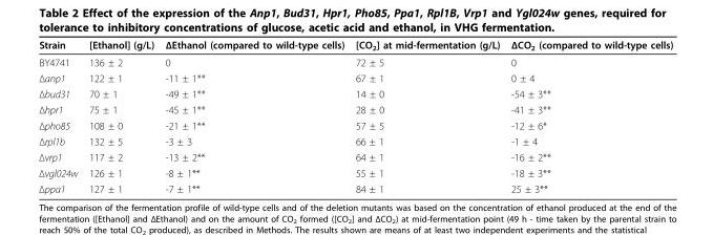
<table><thead><tr><td>Strain</td><td>[Ethanol] (g/L)</td><td>ΔEthanol (compared to wild-type cells)</td><td>[CO<sub>2</sub>] at mid-fermentation (g/L)</td><td>ΔCO<sub>2</sub> (compared to wild-type cells)</td></tr></thead><tbody><tr><td>BY4741</td><td>136 ± 2</td><td>0</td><td>72 ± 5</td><td>0</td></tr><tr><td>Δanp1</td><td>122 ± 1</td><td>-11 ± 1**</td><td>67 ± 1</td><td>0 ± 4</td></tr><tr><td>Δbud31</td><td>70 ± 1</td><td>-49 ± 1**</td><td>14 ± 0</td><td>-54 ± 3**</td></tr><tr><td>Δhpr1</td><td>75 ± 1</td><td>-45 ± 1**</td><td>28 ± 0</td><td>-41 ± 3**</td></tr><tr><td>Δpho85</td><td>108 ± 0</td><td>-21 ± 1**</td><td>57 ± 5</td><td>-12 ± 6*</td></tr><tr><td>Δrpl1b</td><td>132 ± 5</td><td>-3 ± 3</td><td>66 ± 1</td><td>-1 ± 4</td></tr><tr><td>Δvrp1</td><td>117 ± 2</td><td>-13 ± 2**</td><td>64 ± 1</td><td>-16 ± 2**</td></tr><tr><td>Δvgl024w</td><td>126 ± 1</td><td>-8 ± 1**</td><td>55 ± 1</td><td>-18 ± 3**</td></tr><tr><td>Δppa1</td><td>127 ± 1</td><td>-7 ± 1**</td><td>84 ± 1</td><td>25 ± 3**</td></tr></tbody></table>